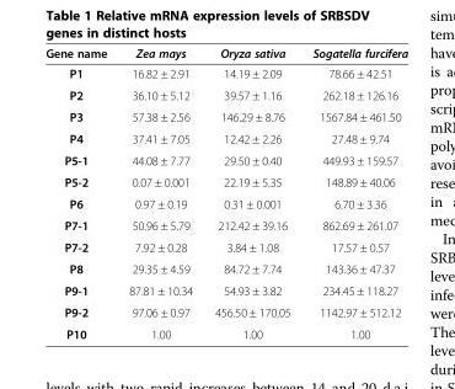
<table><thead><tr><td>Gene name</td><td>Zea mays</td><td>Oryza sativa</td><td>Sogatella furcifera</td></tr></thead><tbody><tr><td>P1</td><td>16.82 ± 2.91</td><td>14.19 ± 2.09</td><td>78.66 ± 42.51</td></tr><tr><td>P2</td><td>36.10 ± 5.12</td><td>39.57 ± 1.16</td><td>262.18 ± 126.16</td></tr><tr><td>P3</td><td>57.38 ± 2.56</td><td>146.29 ± 8.76</td><td>1567.84 ± 461.50</td></tr><tr><td>P4</td><td>37.41 ± 7.05</td><td>12.42 ± 2.26</td><td>27.48 ± 9.74</td></tr><tr><td>P5-1</td><td>44.08 ± 7.77</td><td>29.50 ± 0.40</td><td>449.93 ± 159.57</td></tr><tr><td>P5-2</td><td>0.07 ± 0.001</td><td>22.19 ± 5.35</td><td>148.89 ± 40.06</td></tr><tr><td>P6</td><td>0.97 ± 0.19</td><td>0.31 ± 0.001</td><td>6.70 ± 3.36</td></tr><tr><td>P7-1</td><td>50.96 ± 5.79</td><td>212.42 ± 39.16</td><td>862.69 ± 261.07</td></tr><tr><td>P7-2</td><td>7.92 ± 0.28</td><td>3.84 ± 1.08</td><td>17.57 ± 0.57</td></tr><tr><td>P8</td><td>29.35 ± 4.59</td><td>84.72 ± 7.74</td><td>143.36 ± 47.37</td></tr><tr><td>P9-1</td><td>87.81 ± 10.34</td><td>54.93 ± 3.82</td><td>234.45 ± 118.27</td></tr><tr><td>P9-2</td><td>97.06 ± 0.97</td><td>456.50 ± 170.05</td><td>1142.97 ± 512.12</td></tr><tr><td>P10</td><td>1.00</td><td>1.00</td><td>1.00</td></tr></tbody></table>